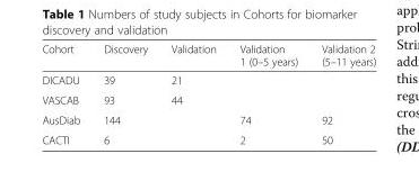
<table><thead><tr><td>Cohort</td><td>Discovery</td><td>Validation</td><td>Validation 1 (0–5 years)</td><td>Validation 2 (5–11 years)</td></tr></thead><tbody><tr><td>DICADU</td><td>39</td><td>21</td><td></td><td></td></tr><tr><td>VASCAB</td><td>93</td><td>44</td><td></td><td></td></tr><tr><td>AusDiab</td><td>144</td><td></td><td>74</td><td>92</td></tr><tr><td>CACTI</td><td>6</td><td></td><td>2</td><td>50</td></tr></tbody></table>